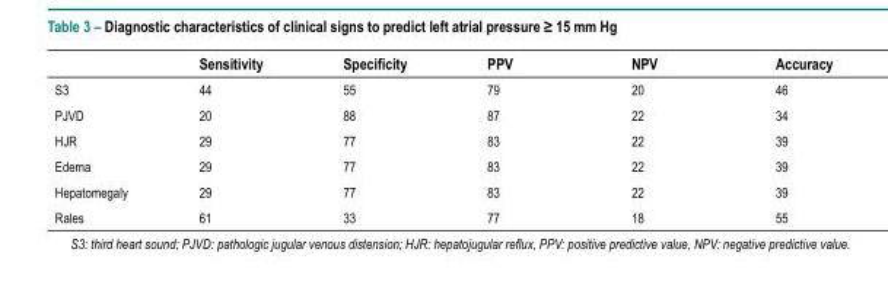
<table><thead><tr><td></td><td>Sensitivity</td><td>Specificity</td><td>PPV</td><td>NPV</td><td>Accuracy</td></tr></thead><tbody><tr><td>S3</td><td>44</td><td>55</td><td>79</td><td>20</td><td>46</td></tr><tr><td>PJVD</td><td>20</td><td>88</td><td>87</td><td>22</td><td>34</td></tr><tr><td>HJR</td><td>29</td><td>77</td><td>83</td><td>22</td><td>39</td></tr><tr><td>Edema</td><td>29</td><td>77</td><td>83</td><td>22</td><td>39</td></tr><tr><td>Hepatomegaly</td><td>29</td><td>77</td><td>83</td><td>22</td><td>39</td></tr><tr><td>Rales</td><td>61</td><td>33</td><td>77</td><td>18</td><td>55</td></tr></tbody></table>